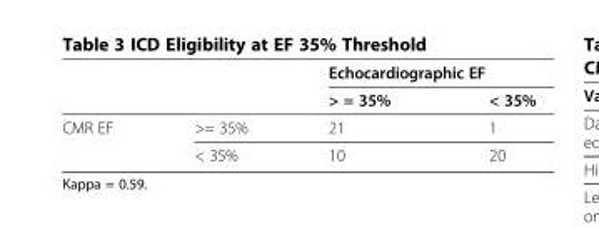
<table><thead><tr><td rowspan="2"></td><td rowspan="2"></td><td colspan="2">Echocardiographic EF</td></tr><tr><td>&gt; = 35%</td><td>&lt; 35%</td></tr></thead><tbody><tr><td rowspan="2">CMR EF</td><td>&gt;= 35%</td><td>21</td><td>1</td></tr><tr><td>&lt; 35%</td><td>10</td><td>20</td></tr></tbody></table>